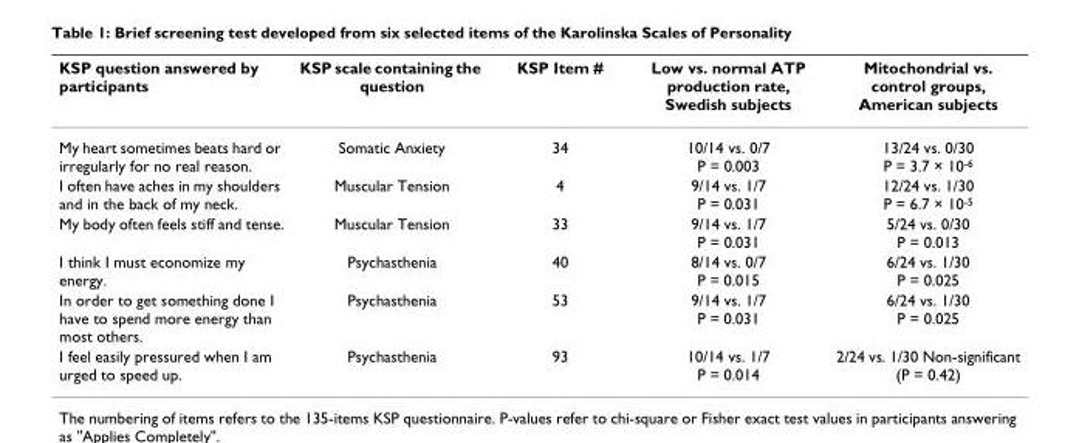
<table><thead><tr><td>KSP question answered by participants</td><td>KSP scale containing the question</td><td>KSP Item #</td><td>Low vs. normal ATP production rate, Swedish subjects</td><td>Mitochondrial vs. control groups, American subjects</td></tr></thead><tbody><tr><td>My heart sometimes beats hard or irregularly for no real reason.</td><td>Somatic Anxiety</td><td>34</td><td>10/14 vs. 0/7 P = 0.003</td><td>13/24 vs. 0/30 P = 3.7 × 10<sup>-6</sup></td></tr><tr><td>I often have aches in my shoulders and in the back of my neck.</td><td>Muscular Tension</td><td>4</td><td>9/14 vs. 1/7 P = 0.031</td><td>12/24 vs. 1/30 P = 6.7 × 10<sup>-5</sup></td></tr><tr><td>My body often feels stiff and tense.</td><td>Muscular Tension</td><td>33</td><td>9/14 vs. 1/7 P = 0.031</td><td>5/24 vs. 0/30 P = 0.013</td></tr><tr><td>I think I must economize my energy.</td><td>Psychasthenia</td><td>40</td><td>8/14 vs. 0/7 P = 0.015</td><td>6/24 vs. 1/30 P = 0.025</td></tr><tr><td>In order to get something done I have to spend more energy than most others.</td><td>Psychasthenia</td><td>53</td><td>9/14 vs. 1/7 P = 0.031</td><td>6/24 vs. 1/30 P = 0.025</td></tr><tr><td>I feel easily pressured when I am urged to speed up.</td><td>Psychasthenia</td><td>93</td><td>10/14 vs. 1/7 P = 0.014</td><td>2/24 vs. 1/30 Non-significant (P = 0.42)</td></tr></tbody></table>